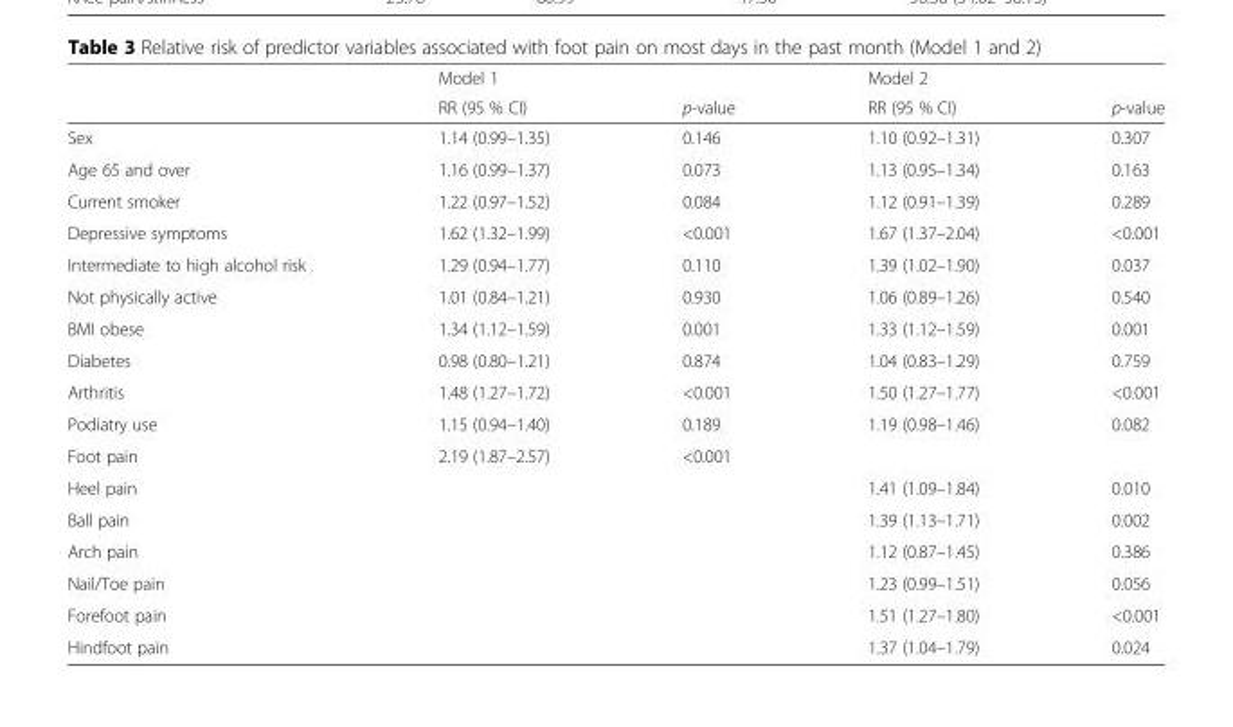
<table><thead><tr><td rowspan="2"></td><td rowspan="2">Model 1 RR (95 % CI)</td><td rowspan="2">p-value</td><td rowspan="2">Model 2 RR (95 % CI)</td><td rowspan="2">p-value</td></tr><tr></tr></thead><tbody><tr><td>Sex</td><td>1.14 (0.99–1.35)</td><td>0.146</td><td>1.10 (0.92–1.31)</td><td>0.307</td></tr><tr><td>Age 65 and over</td><td>1.16 (0.99–1.37)</td><td>0.073</td><td>1.13 (0.95–1.34)</td><td>0.163</td></tr><tr><td>Current smoker</td><td>1.22 (0.97–1.52)</td><td>0.084</td><td>1.12 (0.91–1.39)</td><td>0.289</td></tr><tr><td>Depressive symptoms</td><td>1.62 (1.32–1.99)</td><td>&lt;0.001</td><td>1.67 (1.37–2.04)</td><td>&lt;0.001</td></tr><tr><td>Intermediate to high alcohol risk</td><td>1.29 (0.94–1.77)</td><td>0.110</td><td>1.39 (1.02–1.90)</td><td>0.037</td></tr><tr><td>Not physically active</td><td>1.01 (0.84–1.21)</td><td>0.930</td><td>1.06 (0.89–1.26)</td><td>0.540</td></tr><tr><td>BMI obese</td><td>1.34 (1.12–1.59)</td><td>0.001</td><td>1.33 (1.12–1.59)</td><td>0.001</td></tr><tr><td>Diabetes</td><td>0.98 (0.80–1.21)</td><td>0.874</td><td>1.04 (0.83–1.29)</td><td>0.759</td></tr><tr><td>Arthritis</td><td>1.48 (1.27–1.72)</td><td>&lt;0.001</td><td>1.50 (1.27–1.77)</td><td>&lt;0.001</td></tr><tr><td>Podiatry use</td><td>1.15 (0.94–1.40)</td><td>0.189</td><td>1.19 (0.98–1.46)</td><td>0.082</td></tr><tr><td>Foot pain</td><td>2.19 (1.87–2.57)</td><td>&lt;0.001</td><td></td><td></td></tr><tr><td>Heel pain</td><td></td><td></td><td>1.41 (1.09–1.84)</td><td>0.010</td></tr><tr><td>Ball pain</td><td></td><td></td><td>1.39 (1.13–1.71)</td><td>0.002</td></tr><tr><td>Arch pain</td><td></td><td></td><td>1.12 (0.87–1.45)</td><td>0.386</td></tr><tr><td>Nail/Toe pain</td><td></td><td></td><td>1.23 (0.99–1.51)</td><td>0.056</td></tr><tr><td>Forefoot pain</td><td></td><td></td><td>1.51 (1.27–1.80)</td><td>&lt;0.001</td></tr><tr><td>Hindfoot pain</td><td></td><td></td><td>1.37 (1.04–1.79)</td><td>0.024</td></tr></tbody></table>